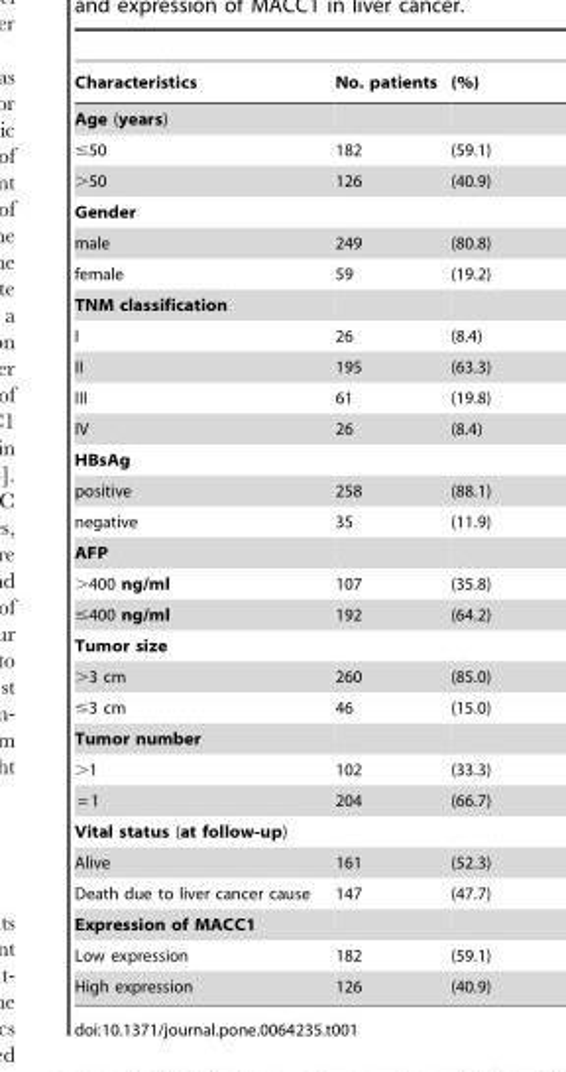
<table><thead><tr><td>Characteristics</td><td>No. patients</td><td>(%)</td></tr></thead><tbody><tr><td colspan="3">Age (years)</td></tr><tr><td>≤50</td><td>182</td><td>(59.1)</td></tr><tr><td>&gt;50</td><td>126</td><td>(40.9)</td></tr><tr><td colspan="3">Gender</td></tr><tr><td>male</td><td>249</td><td>(80.8)</td></tr><tr><td>female</td><td>59</td><td>(19.2)</td></tr><tr><td colspan="3">TNM classification</td></tr><tr><td>I</td><td>26</td><td>(8.4)</td></tr><tr><td>II</td><td>195</td><td>(63.3)</td></tr><tr><td>III</td><td>61</td><td>(19.8)</td></tr><tr><td>IV</td><td>26</td><td>(8.4)</td></tr><tr><td colspan="3">HBsAg</td></tr><tr><td>positive</td><td>258</td><td>(88.1)</td></tr><tr><td>negative</td><td>35</td><td>(11.9)</td></tr><tr><td colspan="3">AFP</td></tr><tr><td>&gt;400 ng/ml</td><td>107</td><td>(35.8)</td></tr><tr><td>≤400 ng/ml</td><td>192</td><td>(64.2)</td></tr><tr><td colspan="3">Tumor size</td></tr><tr><td>&gt;3 cm</td><td>260</td><td>(85.0)</td></tr><tr><td>≤3 cm</td><td>46</td><td>(15.0)</td></tr><tr><td colspan="3">Tumor number</td></tr><tr><td>&gt;1</td><td>102</td><td>(33.3)</td></tr><tr><td>= 1</td><td>204</td><td>(66.7)</td></tr><tr><td colspan="3">Vital status (at follow-up)</td></tr><tr><td>Alive</td><td>161</td><td>(52.3)</td></tr><tr><td>Death due to liver cancer cause</td><td>147</td><td>(47.7)</td></tr><tr><td colspan="3">Expression of MACC1</td></tr><tr><td>Low expression</td><td>182</td><td>(59.1)</td></tr><tr><td>High expression</td><td>126</td><td>(40.9)</td></tr></tbody></table>